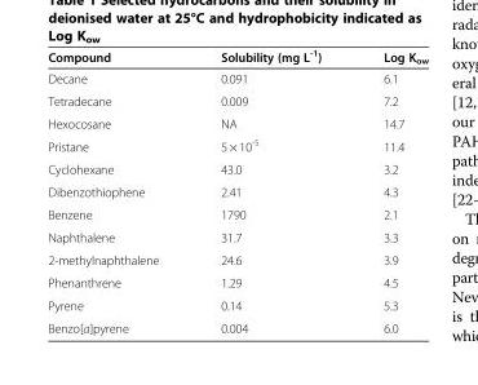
<table><thead><tr><td>Compound</td><td>Solubility (mg L<sup>-1</sup>)</td><td>Log K<sub>ow</sub></td></tr></thead><tbody><tr><td>Decane</td><td>0.091</td><td>6.1</td></tr><tr><td>Tetradecane</td><td>0.009</td><td>7.2</td></tr><tr><td>Hexocosane</td><td>NA</td><td>14.7</td></tr><tr><td>Pristane</td><td>5 × 10<sup>-5</sup></td><td>11.4</td></tr><tr><td>Cyclohexane</td><td>43.0</td><td>3.2</td></tr><tr><td>Dibenzothiophene</td><td>2.41</td><td>4.3</td></tr><tr><td>Benzene</td><td>1790</td><td>2.1</td></tr><tr><td>Naphthalene</td><td>31.7</td><td>3.3</td></tr><tr><td>2-methylnaphthalene</td><td>24.6</td><td>3.9</td></tr><tr><td>Phenanthrene</td><td>1.29</td><td>4.5</td></tr><tr><td>Pyrene</td><td>0.14</td><td>5.3</td></tr><tr><td>Benzo[a]pyrene</td><td>0.004</td><td>6.0</td></tr></tbody></table>